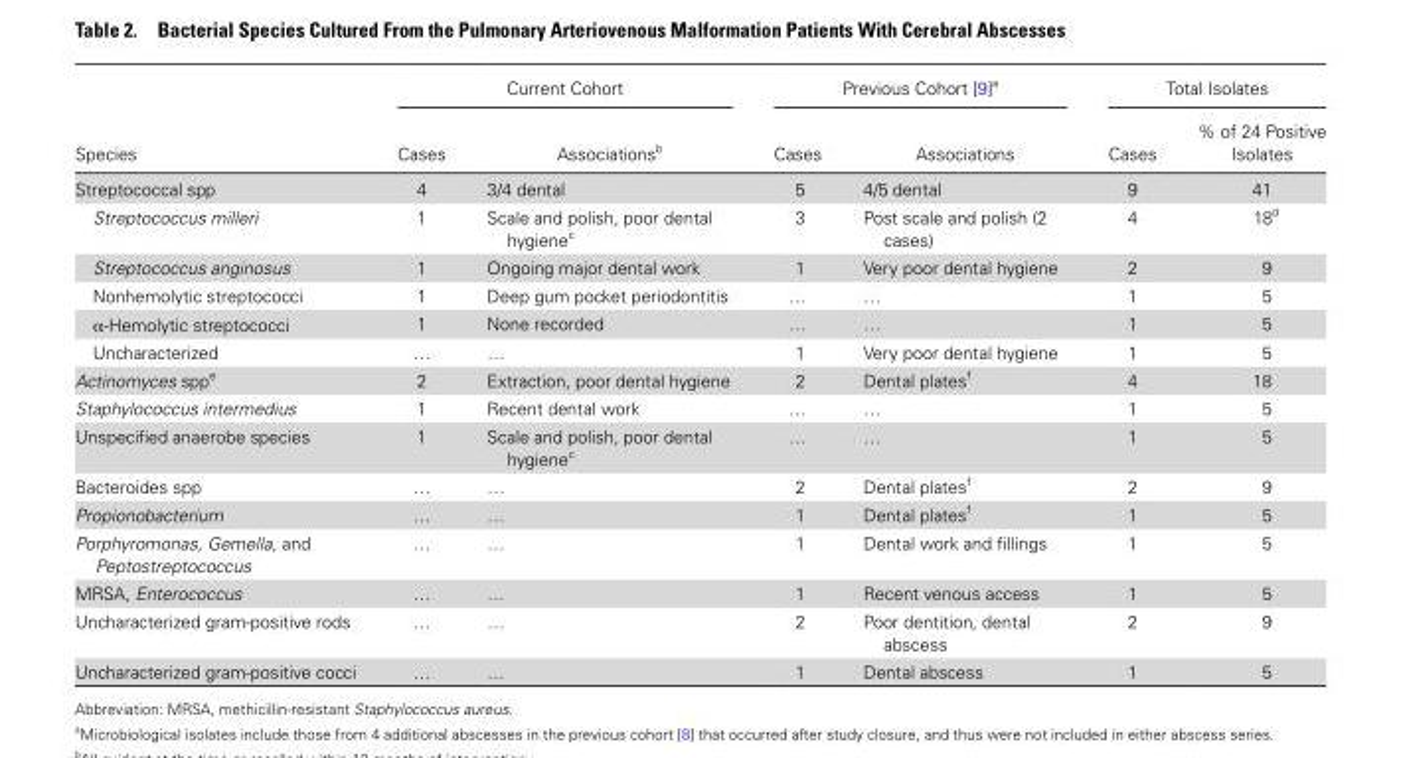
<table><thead><tr><td rowspan="2">Species</td><td colspan="2">Current Cohort</td><td colspan="2">Previous Cohort [9]<sup>a</sup></td><td colspan="2">Total Isolates</td></tr><tr><td>Cases</td><td>Associations<sup>b</sup></td><td>Cases</td><td>Associations</td><td>Cases</td><td>% of 24 Positive Isolates</td></tr></thead><tbody><tr><td>Streptococcal spp</td><td>4</td><td>3/4 dental</td><td>5</td><td>4/5 dental</td><td>9</td><td>41</td></tr><tr><td>Streptococcus milleri</td><td>1</td><td>Scale and polish, poor dental hygiene<sup>c</sup></td><td>3</td><td>Post scale and polish (2 cases)</td><td>4</td><td>18<sup>d</sup></td></tr><tr><td>Streptococcus anginosus</td><td>1</td><td>Ongoing major dental work</td><td>1</td><td>Very poor dental hygiene</td><td>2</td><td>9</td></tr><tr><td>Nonhemolytic streptococci</td><td>1</td><td>Deep gum pocket periodontitis</td><td>…</td><td>…</td><td>1</td><td>5</td></tr><tr><td>α-Hemolytic streptococci</td><td>1</td><td>None recorded</td><td>…</td><td>…</td><td>1</td><td>5</td></tr><tr><td>Uncharacterized</td><td>…</td><td>…</td><td>1</td><td>Very poor dental hygiene</td><td>1</td><td>5</td></tr><tr><td>Actinomyces spp<sup>e</sup></td><td>2</td><td>Extraction, poor dental hygiene</td><td>2</td><td>Dental plates<sup>f</sup></td><td>4</td><td>18</td></tr><tr><td>Staphylococcus intermedius</td><td>1</td><td>Recent dental work</td><td>…</td><td>…</td><td>1</td><td>5</td></tr><tr><td>Unspecified anaerobe species</td><td>1</td><td>Scale and polish, poor dental hygiene<sup>c</sup></td><td>…</td><td>…</td><td>1</td><td>5</td></tr><tr><td>Bacteroides spp</td><td>…</td><td>…</td><td>2</td><td>Dental plates<sup>f</sup></td><td>2</td><td>9</td></tr><tr><td>Propionobacterium</td><td>…</td><td>…</td><td>1</td><td>Dental plates<sup>f</sup></td><td>1</td><td>5</td></tr><tr><td>Porphyromonas, Gemella, and Peptostreptococcus</td><td>…</td><td>…</td><td>1</td><td>Dental work and fillings</td><td>1</td><td>5</td></tr><tr><td>MRSA, Enterococcus</td><td>…</td><td>…</td><td>1</td><td>Recent venous access</td><td>1</td><td>5</td></tr><tr><td>Uncharacterized gram-positive rods</td><td>…</td><td>…</td><td>2</td><td>Poor dentition, dental abscess</td><td>2</td><td>9</td></tr><tr><td>Uncharacterized gram-positive cocci</td><td>…</td><td>…</td><td>1</td><td>Dental abscess</td><td>1</td><td>5</td></tr></tbody></table>